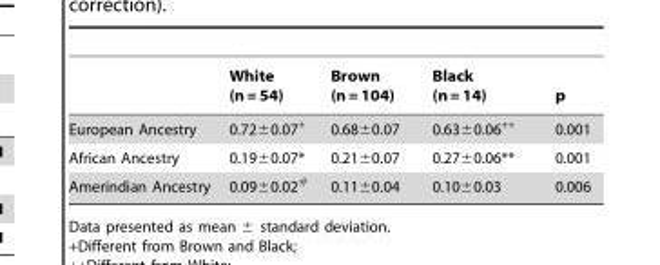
<table><thead><tr><td></td><td>White (n = 54)</td><td>Brown (n = 104)</td><td>Black (n = 14)</td><td>p</td></tr></thead><tbody><tr><td>European Ancestry</td><td>0.72±0.07+</td><td>0.68±0.07</td><td>0.63±0.06++</td><td>0.001</td></tr><tr><td>African Ancestry</td><td>0.19±0.07*</td><td>0.21±0.07</td><td>0.27±0.06**</td><td>0.001</td></tr><tr><td>Amerindian Ancestry</td><td>0.09±0.02#</td><td>0.11±0.04</td><td>0.10±0.03</td><td>0.006</td></tr></tbody></table>